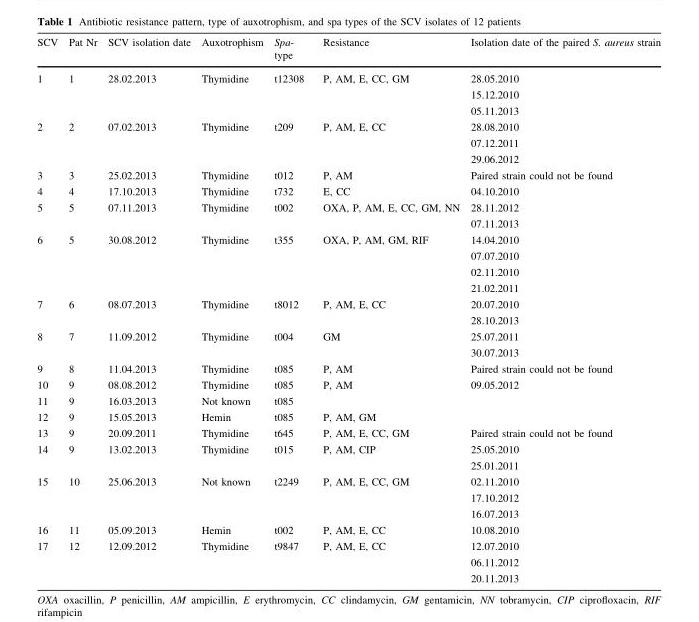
<table><thead><tr><td>SCV</td><td>Pat Nr</td><td>SCV isolation date</td><td>Auxotrophism</td><td>Spa- type</td><td>Resistance</td><td>Isolation date of the paired S. aureus strain</td></tr></thead><tbody><tr><td>1</td><td>1</td><td>28.02.2013</td><td>Thymidine</td><td>t12308</td><td>P, AM, E, CC, GM</td><td>28.05.2010 15.12.2010 05.11.2013</td></tr><tr><td>2</td><td>2</td><td>07.02.2013</td><td>Thymidine</td><td>t209</td><td>P, AM, E, CC</td><td>28.08.2010 07.12.2011 29.06.2012</td></tr><tr><td>3</td><td>3</td><td>25.02.2013</td><td>Thymidine</td><td>t012</td><td>P, AM</td><td>Paired strain could not be found</td></tr><tr><td>4</td><td>4</td><td>17.10.2013</td><td>Thymidine</td><td>t732</td><td>E, CC</td><td>04.10.2010</td></tr><tr><td>5</td><td>5</td><td>07.11.2013</td><td>Thymidine</td><td>t002</td><td>OXA, P, AM, E, CC, GM, NN</td><td>28.11.2012 07.11.2013</td></tr><tr><td>6</td><td>5</td><td>30.08.2012</td><td>Thymidine</td><td>t355</td><td>OXA, P, AM, GM, RIF</td><td>14.04.2010 07.07.2010 02.11.2010 21.02.2011</td></tr><tr><td>7</td><td>6</td><td>08.07.2013</td><td>Thymidine</td><td>t8012</td><td>P, AM, E, CC</td><td>20.07.2010 28.10.2013</td></tr><tr><td>8</td><td>7</td><td>11.09.2012</td><td>Thymidine</td><td>t004</td><td>GM</td><td>25.07.2011 30.07.2013</td></tr><tr><td>9</td><td>8</td><td>11.04.2013</td><td>Thymidine</td><td>t085</td><td>P, AM</td><td>Paired strain could not be found</td></tr><tr><td>10</td><td>9</td><td>08.08.2012</td><td>Thymidine</td><td>t085</td><td>P, AM</td><td rowspan="3">09.05.2012</td></tr><tr><td>11</td><td>9</td><td>16.03.2013</td><td>Not known</td><td>t085</td><td></td></tr><tr><td>12</td><td>9</td><td>15.05.2013</td><td>Hemin</td><td>t085</td><td>P, AM, GM</td></tr><tr><td>13</td><td>9</td><td>20.09.2011</td><td>Thymidine</td><td>t645</td><td>P, AM, E, CC, GM</td><td>Paired strain could not be found</td></tr><tr><td>14</td><td>9</td><td>13.02.2013</td><td>Thymidine</td><td>t015</td><td>P, AM, CIP</td><td>25.05.2010 25.01.2011</td></tr><tr><td>15</td><td>10</td><td>25.06.2013</td><td>Not known</td><td>t2249</td><td>P, AM, E, CC, GM</td><td>02.11.2010 17.10.2012 16.07.2013</td></tr><tr><td>16</td><td>11</td><td>05.09.2013</td><td>Hemin</td><td>t002</td><td>P, AM, E, CC</td><td>10.08.2010</td></tr><tr><td>17</td><td>12</td><td>12.09.2012</td><td>Thymidine</td><td>t9847</td><td>P, AM, E, CC</td><td>12.07.2010 06.11.2012 20.11.2013</td></tr></tbody></table>